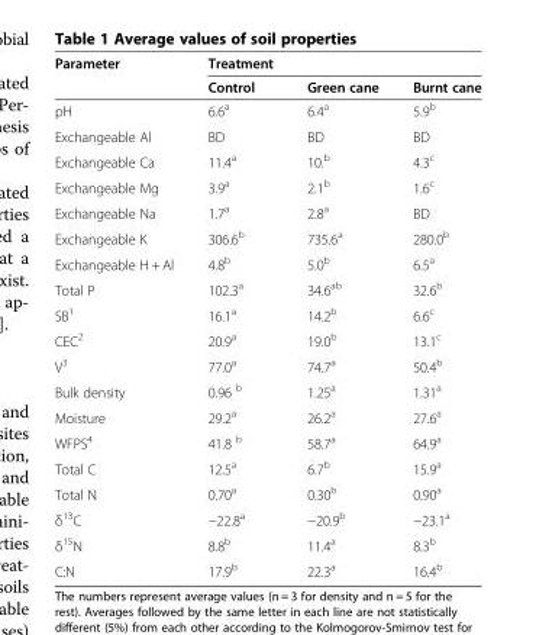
<table><thead><tr><td rowspan="2">Parameter</td><td colspan="3">Treatment</td></tr><tr><td>Control</td><td>Green cane</td><td>Burnt cane</td></tr></thead><tbody><tr><td>pH</td><td>6.6<sup>a</sup></td><td>6.4<sup>a</sup></td><td>5.9<sup>b</sup></td></tr><tr><td>Exchangeable Al</td><td>BD</td><td>BD</td><td>BD</td></tr><tr><td>Exchangeable Ca</td><td>11.4<sup>a</sup></td><td>10.<sup>b</sup></td><td>4.3<sup>c</sup></td></tr><tr><td>Exchangeable Mg</td><td>3.9<sup>a</sup></td><td>2.1<sup>b</sup></td><td>1.6<sup>c</sup></td></tr><tr><td>Exchangeable Na</td><td>1.7<sup>a</sup></td><td>2.8<sup>a</sup></td><td>BD</td></tr><tr><td>Exchangeable K</td><td>306.6<sup>b</sup></td><td>735.6<sup>a</sup></td><td>280.0<sup>b</sup></td></tr><tr><td>Exchangeable H + Al</td><td>4.8<sup>b</sup></td><td>5.0<sup>b</sup></td><td>6.5<sup>a</sup></td></tr><tr><td>Total P</td><td>102.3<sup>a</sup></td><td>34.6<sup>ab</sup></td><td>32.6<sup>b</sup></td></tr><tr><td>SB<sup>1</sup></td><td>16.1<sup>a</sup></td><td>14.2<sup>b</sup></td><td>6.6<sup>c</sup></td></tr><tr><td>CEC<sup>2</sup></td><td>20.9<sup>a</sup></td><td>19.0<sup>b</sup></td><td>13.1<sup>c</sup></td></tr><tr><td>V<sup>3</sup></td><td>77.0<sup>a</sup></td><td>74.7<sup>a</sup></td><td>50.4<sup>b</sup></td></tr><tr><td>Bulk density</td><td>0.96 <sup>b</sup></td><td>1.25<sup>a</sup></td><td>1.31<sup>a</sup></td></tr><tr><td>Moisture</td><td>29.2<sup>a</sup></td><td>26.2<sup>a</sup></td><td>27.6<sup>a</sup></td></tr><tr><td>WFPS<sup>4</sup></td><td>41.8 <sup>b</sup></td><td>58.7<sup>a</sup></td><td>64.9<sup>a</sup></td></tr><tr><td>Total C</td><td>12.5<sup>a</sup></td><td>6.7<sup>b</sup></td><td>15.9<sup>a</sup></td></tr><tr><td>Total N</td><td>0.70<sup>a</sup></td><td>0.30<sup>b</sup></td><td>0.90<sup>a</sup></td></tr><tr><td>δ<sup>13</sup>C</td><td>−22.8<sup>a</sup></td><td>−20.9<sup>b</sup></td><td>−23.1<sup>a</sup></td></tr><tr><td>δ<sup>15</sup>N</td><td>8.8<sup>b</sup></td><td>11.4<sup>a</sup></td><td>8.3<sup>b</sup></td></tr><tr><td>C:N</td><td>17.9<sup>b</sup></td><td>22.3<sup>a</sup></td><td>16.4<sup>b</sup></td></tr></tbody></table>